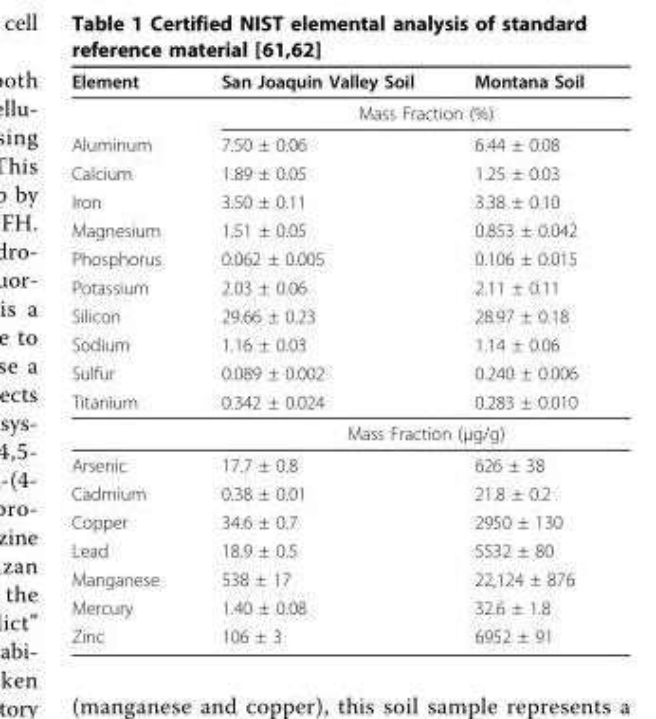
<table><thead><tr><td>Element</td><td>San Joaquin Valley Soil</td><td>Montana Soil</td></tr></thead><tbody><tr><td></td><td colspan="2">Mass Fraction (%)</td></tr><tr><td>Aluminum</td><td>7.50 ± 0.06</td><td>6.44 ± 0.08</td></tr><tr><td>Calcium</td><td>1.89 ± 0.05</td><td>1.25 ± 0.03</td></tr><tr><td>Iron</td><td>3.50 ± 0.11</td><td>3.38 ± 0.10</td></tr><tr><td>Magnesium</td><td>1.51 ± 0.05</td><td>0.853 ± 0.042</td></tr><tr><td>Phosphorus</td><td>0.062 ± 0.005</td><td>0.106 ± 0.015</td></tr><tr><td>Potassium</td><td>2.03 ± 0.06</td><td>2.11 ± 0.11</td></tr><tr><td>Silicon</td><td>29.66 ± 0.23</td><td>28.97 ± 0.18</td></tr><tr><td>Sodium</td><td>1.16 ± 0.03</td><td>1.14 ± 0.06</td></tr><tr><td>Sulfur</td><td>0.089 ± 0.002</td><td>0.240 ± 0.006</td></tr><tr><td rowspan="2">Titanium</td><td>0.342 ± 0.024</td><td>0.283 ± 0.010</td></tr><tr><td colspan="2">Mass Fraction (μg/g)</td></tr><tr><td>Arsenic</td><td>17.7 ± 0.8</td><td>626 ± 38</td></tr><tr><td>Cadmium</td><td>0.38 ± 0.01</td><td>21.8 ± 0.2</td></tr><tr><td>Copper</td><td>34.6 ± 0.7</td><td>2950 ± 130</td></tr><tr><td>Lead</td><td>18.9 ± 0.5</td><td>5532 ± 80</td></tr><tr><td>Manganese</td><td>538 ± 17</td><td>22,124 ± 876</td></tr><tr><td>Mercury</td><td>1.40 ± 0.08</td><td>32.6 ± 1.8</td></tr><tr><td>Zinc</td><td>106 ± 3</td><td>6952 ± 91</td></tr></tbody></table>